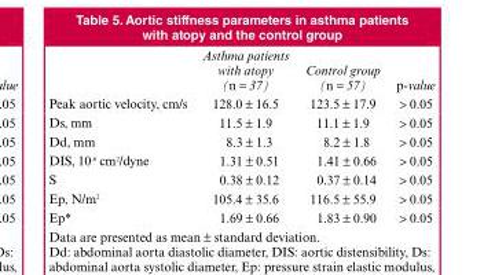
<table><thead><tr><td></td><td>Asthma patients with atopy (n = 37)</td><td>Control group (n = 57)</td><td>p-value</td></tr></thead><tbody><tr><td>Peak aortic velocity, cm/s</td><td>128.0 ± 16.5</td><td>123.5 ± 17.9</td><td>&gt; 0.05</td></tr><tr><td>Ds, mm</td><td>11.5 ± 1.9</td><td>11.1 ± 1.9</td><td>&gt; 0.05</td></tr><tr><td>Dd, mm</td><td>8.3 ± 1.3</td><td>8.2 ± 1.8</td><td>&gt; 0.05</td></tr><tr><td>DIS, 10<sup>-6</sup> cm<sup>2</sup>/dyne</td><td>1.31 ± 0.51</td><td>1.41 ± 0.66</td><td>&gt; 0.05</td></tr><tr><td>S</td><td>0.38 ± 0.12</td><td>0.37 ± 0.14</td><td>&gt; 0.05</td></tr><tr><td>Ep, N/m<sup>2</sup></td><td>105.4 ± 35.6</td><td>116.5 ± 55.9</td><td>&gt; 0.05</td></tr><tr><td>Ep*</td><td>1.69 ± 0.66</td><td>1.83 ± 0.90</td><td>&gt; 0.05</td></tr></tbody></table>